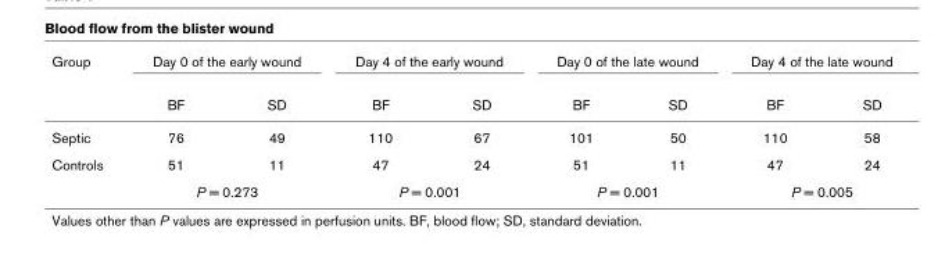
<table><thead><tr><td rowspan="2">Group</td><td colspan="2">Day 0 of the early wound</td><td colspan="2">Day 4 of the early wound</td><td colspan="2">Day 0 of the late wound</td><td colspan="2">Day 4 of the late wound</td></tr><tr><td>BF</td><td>SD</td><td>BF</td><td>SD</td><td>BF</td><td>SD</td><td>BF</td><td>SD</td></tr></thead><tbody><tr><td>Septic</td><td>76</td><td>49</td><td>110</td><td>67</td><td>101</td><td>50</td><td>110</td><td>58</td></tr><tr><td rowspan="2">Controls</td><td>51</td><td>11</td><td>47</td><td>24</td><td>51</td><td>11</td><td>47</td><td>24</td></tr><tr><td colspan="2">P = 0.273</td><td colspan="2">P = 0.001</td><td colspan="2">P = 0.001</td><td colspan="2">P = 0.005</td></tr></tbody></table>